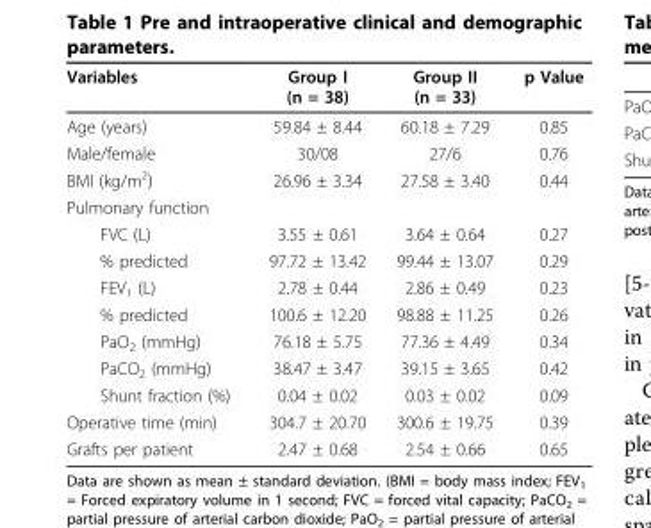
<table><thead><tr><td>Variables</td><td>Group I (n = 38)</td><td>Group II (n = 33)</td><td>p Value</td></tr></thead><tbody><tr><td>Age (years)</td><td>59.84 ± 8.44</td><td>60.18 ± 7.29</td><td>0.85</td></tr><tr><td>Male/female</td><td>30/08</td><td>27/6</td><td>0.76</td></tr><tr><td>BMI (kg/m<sup>2</sup>)</td><td>26.96 ± 3.34</td><td>27.58 ± 3.40</td><td>0.44</td></tr><tr><td colspan="4">Pulmonary function</td></tr><tr><td>FVC (L)</td><td>3.55 ± 0.61</td><td>3.64 ± 0.64</td><td>0.27</td></tr><tr><td>% predicted</td><td>97.72 ± 13.42</td><td>99.44 ± 13.07</td><td>0.29</td></tr><tr><td>FEV<sub>1</sub> (L)</td><td>2.78 ± 0.44</td><td>2.86 ± 0.49</td><td>0.23</td></tr><tr><td>% predicted</td><td>100.6 ± 12.20</td><td>98.88 ± 11.25</td><td>0.26</td></tr><tr><td>PaO<sub>2</sub> (mmHg)</td><td>76.18 ± 5.75</td><td>77.36 ± 4.49</td><td>0.34</td></tr><tr><td>PaCO<sub>2</sub> (mmHg)</td><td>38.47 ± 3.47</td><td>39.15 ± 3.65</td><td>0.42</td></tr><tr><td>Shunt fraction (%)</td><td>0.04 ± 0.02</td><td>0.03 ± 0.02</td><td>0.09</td></tr><tr><td>Operative time (min)</td><td>304.7 ± 20.70</td><td>300.6 ± 19.75</td><td>0.39</td></tr><tr><td>Grafts per patient</td><td>2.47 ± 0.68</td><td>2.54 ± 0.66</td><td>0.65</td></tr></tbody></table>